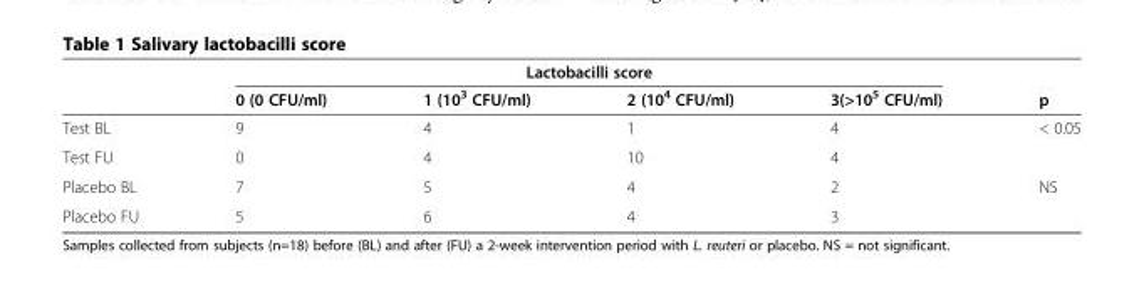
<table><thead><tr><td rowspan="2"></td><td colspan="4">Lactobacilli score</td><td rowspan="2">p</td></tr><tr><td>0 (0 CFU/ml)</td><td>1 (10<sup>3</sup> CFU/ml)</td><td>2 (10<sup>4</sup> CFU/ml)</td><td>3(&gt;10<sup>5</sup> CFU/ml)</td></tr></thead><tbody><tr><td>Test BL</td><td>9</td><td>4</td><td>1</td><td>4</td><td>&lt; 0.05</td></tr><tr><td>Test FU</td><td>0</td><td>4</td><td>10</td><td>4</td><td></td></tr><tr><td>Placebo BL</td><td>7</td><td>5</td><td>4</td><td>2</td><td>NS</td></tr><tr><td>Placebo FU</td><td>5</td><td>6</td><td>4</td><td>3</td><td></td></tr></tbody></table>